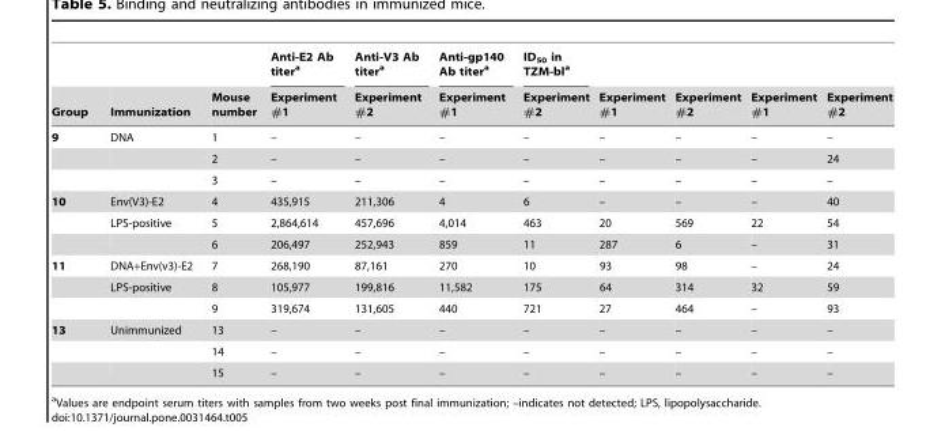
<table><thead><tr><td rowspan="2">Group</td><td rowspan="2">Immunization</td><td rowspan="2">Mouse number</td><td rowspan="2">Anti-E2 Ab titer<sup>a</sup> Experiment #1</td><td rowspan="2">Anti-V3 Ab titer<sup>a</sup> Experiment #2</td><td rowspan="2">Anti-gp140 Ab titer<sup>a</sup> Experiment #1</td><td rowspan="2">ID<sub>50</sub> in TZM-bl<sup>a</sup> Experiment #2</td><td rowspan="2">Experiment #1</td><td rowspan="2">Experiment #2</td><td rowspan="2">Experiment #1</td><td rowspan="2">Experiment #2</td></tr><tr></tr></thead><tbody><tr><td rowspan="3">9</td><td>DNA</td><td>1</td><td>–</td><td>–</td><td>–</td><td>–</td><td>–</td><td>–</td><td>–</td><td>–</td></tr><tr><td></td><td>2</td><td>–</td><td>–</td><td>–</td><td>–</td><td>–</td><td>–</td><td>–</td><td>24</td></tr><tr><td></td><td>3</td><td>–</td><td>–</td><td>–</td><td>–</td><td>–</td><td>–</td><td>–</td><td>–</td></tr><tr><td rowspan="3">10</td><td>Env(V3)-E2</td><td>4</td><td>435,915</td><td>211,306</td><td>4</td><td>6</td><td>–</td><td>–</td><td>–</td><td>40</td></tr><tr><td>LPS-positive</td><td>5</td><td>2,864,614</td><td>457,696</td><td>4,014</td><td>463</td><td>20</td><td>569</td><td>22</td><td>54</td></tr><tr><td></td><td>6</td><td>206,497</td><td>252,943</td><td>859</td><td>11</td><td>287</td><td>6</td><td>–</td><td>31</td></tr><tr><td rowspan="3">11</td><td>DNA+Env(v3)-E2</td><td>7</td><td>268,190</td><td>87,161</td><td>270</td><td>10</td><td>93</td><td>98</td><td>–</td><td>24</td></tr><tr><td>LPS-positive</td><td>8</td><td>105,977</td><td>199,816</td><td>11,582</td><td>175</td><td>64</td><td>314</td><td>32</td><td>59</td></tr><tr><td></td><td>9</td><td>319,674</td><td>131,605</td><td>440</td><td>721</td><td>27</td><td>464</td><td>–</td><td>93</td></tr><tr><td rowspan="3">13</td><td>Unimmunized</td><td>13</td><td>–</td><td>–</td><td>–</td><td>–</td><td>–</td><td>–</td><td>–</td><td>–</td></tr><tr><td></td><td>14</td><td>–</td><td>–</td><td>–</td><td>–</td><td>–</td><td>–</td><td>–</td><td>–</td></tr><tr><td></td><td>15</td><td>–</td><td>–</td><td>–</td><td>–</td><td>–</td><td>–</td><td>–</td><td>–</td></tr></tbody></table>